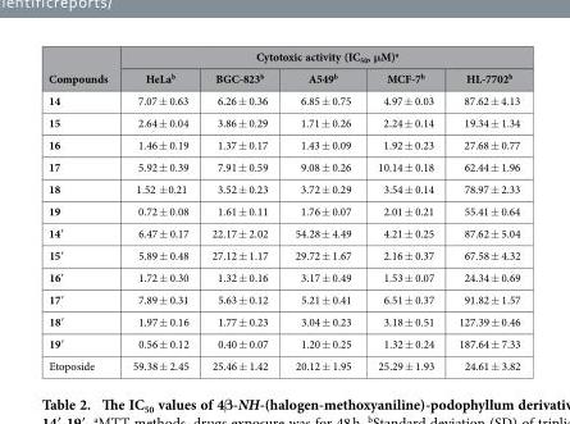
<table><thead><tr><td rowspan="2">Compounds</td><td colspan="5">Cytotoxic activity (IC<sub>50</sub>, μM)<sup>a</sup></td></tr><tr><td>HeLa<sup>b</sup></td><td>BGC-823<sup>b</sup></td><td>A549<sup>b</sup></td><td>MCF-7<sup>b</sup></td><td>HL-7702<sup>b</sup></td></tr></thead><tbody><tr><td>14</td><td>7.07 ± 0.63</td><td>6.26 ± 0.36</td><td>6.85 ± 0.75</td><td>4.97 ± 0.03</td><td>87.62 ± 4.13</td></tr><tr><td>15</td><td>2.64 ± 0.04</td><td>3.86 ± 0.29</td><td>1.71 ± 0.26</td><td>2.24 ± 0.14</td><td>19.34 ± 1.34</td></tr><tr><td>16</td><td>1.46 ± 0.19</td><td>1.37 ± 0.17</td><td>1.43 ± 0.09</td><td>1.92 ± 0.23</td><td>27.68 ± 0.77</td></tr><tr><td>17</td><td>5.92 ± 0.39</td><td>7.91 ± 0.59</td><td>9.08 ± 0.26</td><td>10.14 ± 0.18</td><td>62.44 ± 1.96</td></tr><tr><td>18</td><td>1.52 ± 0.21</td><td>3.52 ± 0.23</td><td>3.72 ± 0.29</td><td>3.54 ± 0.14</td><td>78.97 ± 2.33</td></tr><tr><td>19</td><td>0.72 ± 0.08</td><td>1.61 ± 0.11</td><td>1.76 ± 0.07</td><td>2.01 ± 0.21</td><td>55.41 ± 0.64</td></tr><tr><td>14′</td><td>6.47 ± 0.17</td><td>22.17 ± 2.02</td><td>54.28 ± 4.49</td><td>4.21 ± 0.25</td><td>87.62 ± 5.04</td></tr><tr><td>15′</td><td>5.89 ± 0.48</td><td>27.12 ± 1.17</td><td>29.72 ± 1.67</td><td>2.16 ± 0.37</td><td>67.58 ± 4.32</td></tr><tr><td>16′</td><td>1.72 ± 0.30</td><td>1.32 ± 0.16</td><td>3.17 ± 0.49</td><td>1.53 ± 0.07</td><td>24.34 ± 0.69</td></tr><tr><td>17′</td><td>7.89 ± 0.31</td><td>5.63 ± 0.12</td><td>5.21 ± 0.41</td><td>6.51 ± 0.37</td><td>91.82 ± 1.57</td></tr><tr><td>18′</td><td>1.97 ± 0.16</td><td>1.77 ± 0.23</td><td>3.04 ± 0.23</td><td>3.18 ± 0.51</td><td>127.39 ± 0.46</td></tr><tr><td>19′</td><td>0.56 ± 0.12</td><td>0.40 ± 0.07</td><td>1.20 ± 0.25</td><td>1.32 ± 0.24</td><td>187.64 ± 7.33</td></tr><tr><td>Etoposide</td><td>59.38 ± 2.45</td><td>25.46 ± 1.42</td><td>20.12 ± 1.95</td><td>25.29 ± 1.93</td><td>24.61 ± 3.82</td></tr></tbody></table>